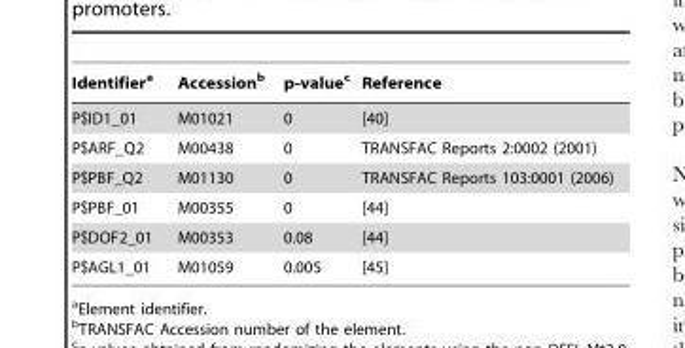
<table><thead><tr><td>Identifier<sup>a</sup></td><td>Accession<sup>b</sup></td><td>p-value<sup>c</sup></td><td>Reference</td></tr></thead><tbody><tr><td>P$ID1_01</td><td>M01021</td><td>0</td><td>[40]</td></tr><tr><td>P$ARF_Q2</td><td>M00438</td><td>0</td><td>TRANSFAC Reports 2:0002 (2001)</td></tr><tr><td>P$PBF_Q2</td><td>M01130</td><td>0</td><td>TRANSFAC Reports 103:0001 (2006)</td></tr><tr><td>P$PBF_01</td><td>M00355</td><td>0</td><td>[44]</td></tr><tr><td>P$DOF2_01</td><td>M00353</td><td>0.08</td><td>[44]</td></tr><tr><td>P$AGL1_01</td><td>M01059</td><td>0.005</td><td>[45]</td></tr></tbody></table>